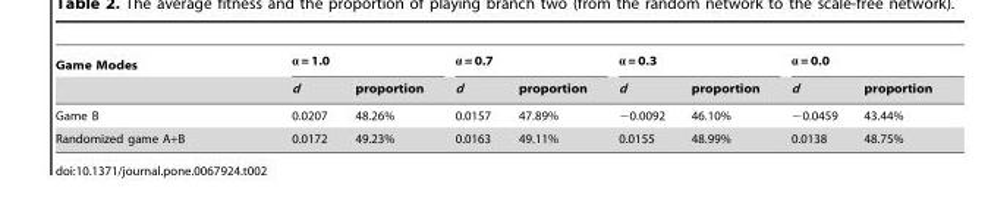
<table><thead><tr><td rowspan="2">Game Modes</td><td colspan="2">α = 1.0</td><td colspan="2">α = 0.7</td><td colspan="2">α = 0.3</td><td colspan="2">α = 0.0</td></tr><tr><td>d</td><td>proportion</td><td>d</td><td>proportion</td><td>d</td><td>proportion</td><td>d</td><td>proportion</td></tr></thead><tbody><tr><td>Game B</td><td>0.0207</td><td>48.26%</td><td>0.0157</td><td>47.89%</td><td>−0.0092</td><td>46.10%</td><td>−0.0459</td><td>43.44%</td></tr><tr><td>Randomized game A+B</td><td>0.0172</td><td>49.23%</td><td>0.0163</td><td>49.11%</td><td>0.0155</td><td>48.99%</td><td>0.0138</td><td>48.75%</td></tr></tbody></table>